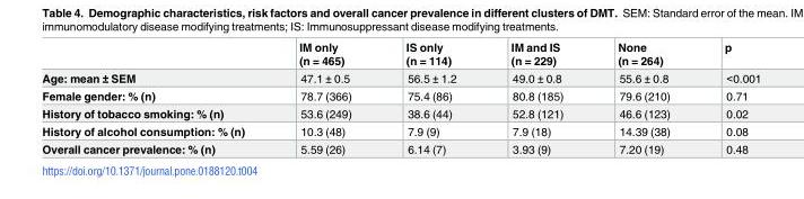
<table><thead><tr><td></td><td>IM only (n = 465)</td><td>IS only (n = 114)</td><td>IM and IS (n = 229)</td><td>None (n = 264)</td><td>p</td></tr></thead><tbody><tr><td>Age: mean ± SEM</td><td>47.1 ± 0.5</td><td>56.5 ± 1.2</td><td>49.0 ± 0.8</td><td>55.6 ± 0.8</td><td>&lt;0.001</td></tr><tr><td>Female gender: % (n)</td><td>78.7 (366)</td><td>75.4 (86)</td><td>80.8 (185)</td><td>79.6 (210)</td><td>0.71</td></tr><tr><td>History of tobacco smoking: % (n)</td><td>53.6 (249)</td><td>38.6 (44)</td><td>52.8 (121)</td><td>46.6 (123)</td><td>0.02</td></tr><tr><td>History of alcohol consumption: % (n)</td><td>10.3 (48)</td><td>7.9 (9)</td><td>7.9 (18)</td><td>14.39 (38)</td><td>0.08</td></tr><tr><td>Overall cancer prevalence: % (n)</td><td>5.59 (26)</td><td>6.14 (7)</td><td>3.93 (9)</td><td>7.20 (19)</td><td>0.48</td></tr></tbody></table>